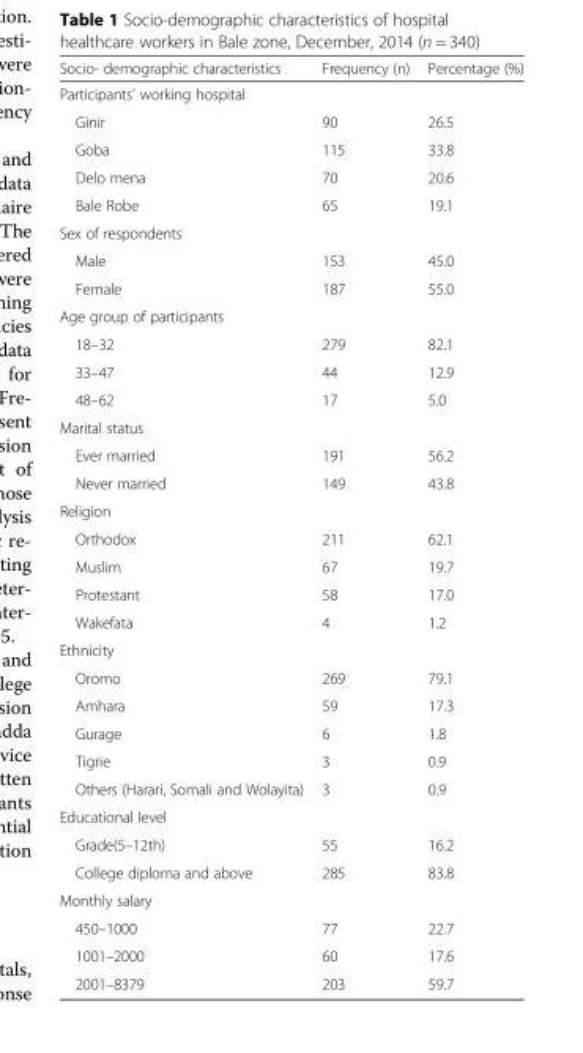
<table><thead><tr><td>Socio- demographic characteristics</td><td>Frequency (n)</td><td>Percentage (%)</td></tr></thead><tbody><tr><td colspan="3">Participants’ working hospital</td></tr><tr><td>Ginir</td><td>90</td><td>26.5</td></tr><tr><td>Goba</td><td>115</td><td>33.8</td></tr><tr><td>Delo mena</td><td>70</td><td>20.6</td></tr><tr><td>Bale Robe</td><td>65</td><td>19.1</td></tr><tr><td colspan="3">Sex of respondents</td></tr><tr><td>Male</td><td>153</td><td>45.0</td></tr><tr><td>Female</td><td>187</td><td>55.0</td></tr><tr><td colspan="3">Age group of participants</td></tr><tr><td>18–32</td><td>279</td><td>82.1</td></tr><tr><td>33–47</td><td>44</td><td>12.9</td></tr><tr><td>48–62</td><td>17</td><td>5.0</td></tr><tr><td colspan="3">Marital status</td></tr><tr><td>Ever married</td><td>191</td><td>56.2</td></tr><tr><td>Never married</td><td>149</td><td>43.8</td></tr><tr><td colspan="3">Religion</td></tr><tr><td>Orthodox</td><td>211</td><td>62.1</td></tr><tr><td>Muslim</td><td>67</td><td>19.7</td></tr><tr><td>Protestant</td><td>58</td><td>17.0</td></tr><tr><td>Wakefata</td><td>4</td><td>1.2</td></tr><tr><td colspan="3">Ethnicity</td></tr><tr><td>Oromo</td><td>269</td><td>79.1</td></tr><tr><td>Amhara</td><td>59</td><td>17.3</td></tr><tr><td>Gurage</td><td>6</td><td>1.8</td></tr><tr><td>Tigrie</td><td>3</td><td>0.9</td></tr><tr><td>Others (Harari, Somali and Wolayita)</td><td>3</td><td>0.9</td></tr><tr><td colspan="3">Educational level</td></tr><tr><td>Grade(5–12th)</td><td>55</td><td>16.2</td></tr><tr><td>College diploma and above</td><td>285</td><td>83.8</td></tr><tr><td colspan="3">Monthly salary</td></tr><tr><td>450–1000</td><td>77</td><td>22.7</td></tr><tr><td>1001–2000</td><td>60</td><td>17.6</td></tr><tr><td>2001–8379</td><td>203</td><td>59.7</td></tr></tbody></table>